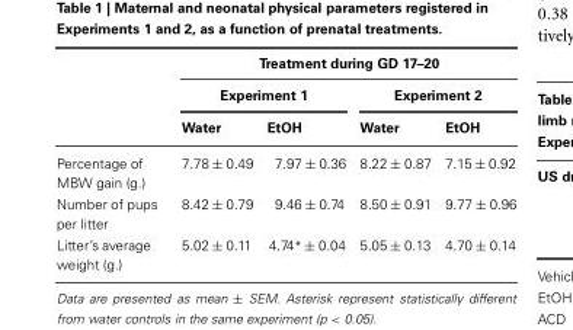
<table><thead><tr><td rowspan="3"></td><td colspan="4">Treatment during GD 17–20</td></tr><tr><td colspan="2">Experiment 1</td><td colspan="2">Experiment 2</td></tr><tr><td>Water</td><td>EtOH</td><td>Water</td><td>EtOH</td></tr></thead><tbody><tr><td>Percentage of MBW gain (g.)</td><td>7.78 ± 0.49</td><td>7.97 ± 0.36</td><td>8.22 ± 0.87</td><td>7.15 ± 0.92</td></tr><tr><td>Number of pups per litter</td><td>8.42 ± 0.79</td><td>9.46 ± 0.74</td><td>8.50 ± 0.91</td><td>9.77 ± 0.96</td></tr><tr><td>Litter’s average weight (g.)</td><td>5.02 ± 0.11</td><td>4.74* ± 0.04</td><td>5.05 ± 0.13</td><td>4.70 ± 0.14</td></tr></tbody></table>